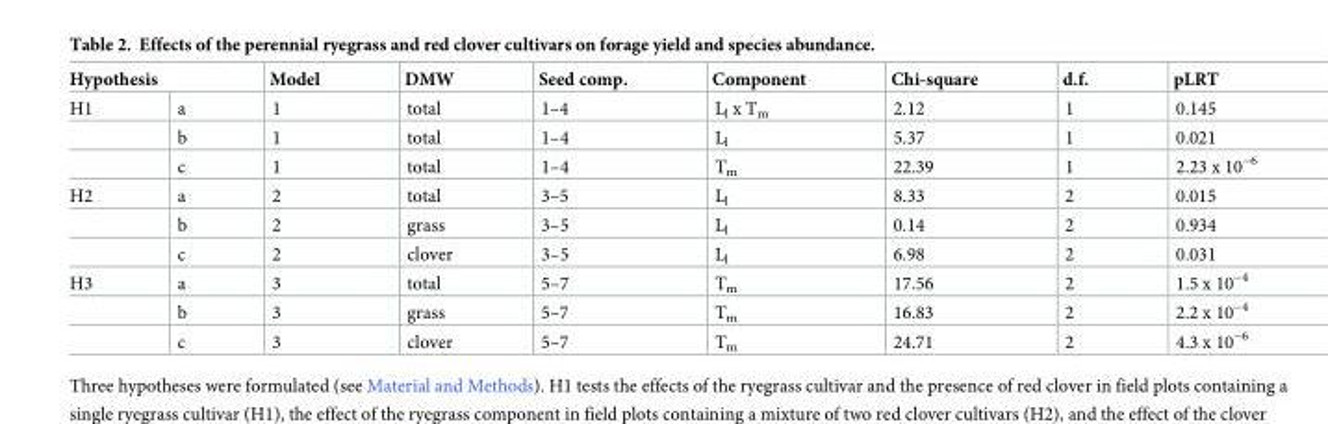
<table><thead><tr><td colspan="2">Hypothesis</td><td rowspan="2">Model 1</td><td rowspan="2">DMW total</td><td rowspan="2">Seed comp. 1–4</td><td rowspan="2">Component L<sub>l</sub> x T<sub>m</sub></td><td rowspan="2">Chi-square 2.12</td><td rowspan="2">d.f. 1</td><td rowspan="2">pLRT 0.145</td></tr><tr><td>H1</td><td>a</td></tr></thead><tbody><tr><td></td><td>b</td><td>1</td><td>total</td><td>1–4</td><td>L<sub>l</sub></td><td>5.37</td><td>1</td><td>0.021</td></tr><tr><td></td><td>c</td><td>1</td><td>total</td><td>1–4</td><td>T<sub>m</sub></td><td>22.39</td><td>1</td><td>2.23 x 10<sup>−6</sup></td></tr><tr><td rowspan="3">H2</td><td>a</td><td>2</td><td>total</td><td>3–5</td><td>L<sub>l</sub></td><td>8.33</td><td>2</td><td>0.015</td></tr><tr><td>b</td><td>2</td><td>grass</td><td>3–5</td><td>L<sub>l</sub></td><td>0.14</td><td>2</td><td>0.934</td></tr><tr><td>c</td><td>2</td><td>clover</td><td>3–5</td><td>L<sub>l</sub></td><td>6.98</td><td>2</td><td>0.031</td></tr><tr><td rowspan="3">H3</td><td>a</td><td>3</td><td>total</td><td>5–7</td><td>T<sub>m</sub></td><td>17.56</td><td>2</td><td>1.5 x 10<sup>−4</sup></td></tr><tr><td>b</td><td>3</td><td>grass</td><td>5–7</td><td>T<sub>m</sub></td><td>16.83</td><td>2</td><td>2.2 x 10<sup>−4</sup></td></tr><tr><td>c</td><td>3</td><td>clover</td><td>5–7</td><td>T<sub>m</sub></td><td>24.71</td><td>2</td><td>4.3 x 10<sup>−6</sup></td></tr></tbody></table>